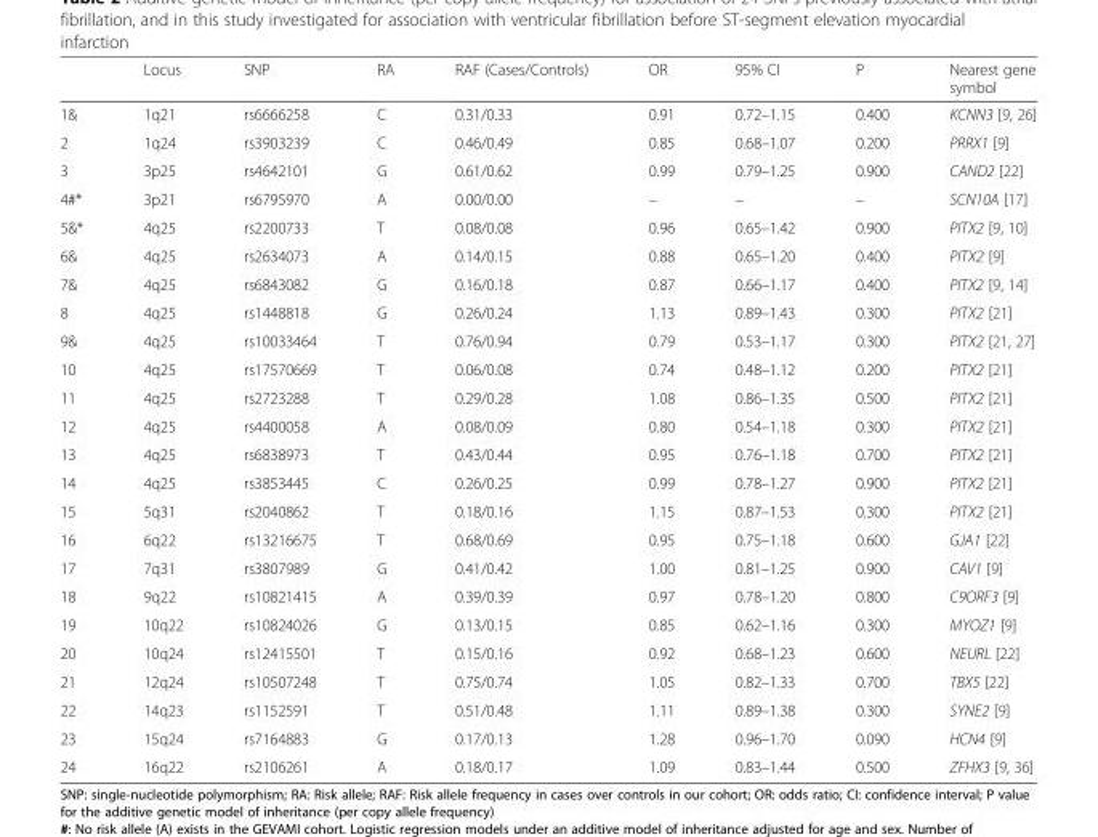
<table><thead><tr><td></td><td>Locus</td><td>SNP</td><td>RA</td><td>RAF (Cases/Controls)</td><td>OR</td><td>95% CI</td><td>P</td><td>Nearest gene symbol</td></tr></thead><tbody><tr><td>1&amp;</td><td>1q21</td><td>rs6666258</td><td>C</td><td>0.31/0.33</td><td>0.91</td><td>0.72–1.15</td><td>0.400</td><td>KCNN3 [9, 26]</td></tr><tr><td>2</td><td>1q24</td><td>rs3903239</td><td>C</td><td>0.46/0.49</td><td>0.85</td><td>0.68–1.07</td><td>0.200</td><td>PRRX1 [9]</td></tr><tr><td>3</td><td>3p25</td><td>rs4642101</td><td>G</td><td>0.61/0.62</td><td>0.99</td><td>0.79–1.25</td><td>0.900</td><td>CAND2 [22]</td></tr><tr><td>4#*</td><td>3p21</td><td>rs6795970</td><td>A</td><td>0.00/0.00</td><td>–</td><td>–</td><td>–</td><td>SCN10A [17]</td></tr><tr><td>5&amp;*</td><td>4q25</td><td>rs2200733</td><td>T</td><td>0.08/0.08</td><td>0.96</td><td>0.65–1.42</td><td>0.900</td><td>PITX2 [9, 10]</td></tr><tr><td>6&amp;</td><td>4q25</td><td>rs2634073</td><td>A</td><td>0.14/0.15</td><td>0.88</td><td>0.65–1.20</td><td>0.400</td><td>PITX2 [9]</td></tr><tr><td>7&amp;</td><td>4q25</td><td>rs6843082</td><td>G</td><td>0.16/0.18</td><td>0.87</td><td>0.66–1.17</td><td>0.400</td><td>PITX2 [9, 14]</td></tr><tr><td>8</td><td>4q25</td><td>rs1448818</td><td>G</td><td>0.26/0.24</td><td>1.13</td><td>0.89–1.43</td><td>0.300</td><td>PITX2 [21]</td></tr><tr><td>9&amp;</td><td>4q25</td><td>rs10033464</td><td>T</td><td>0.76/0.94</td><td>0.79</td><td>0.53–1.17</td><td>0.300</td><td>PITX2 [21, 27]</td></tr><tr><td>10</td><td>4q25</td><td>rs17570669</td><td>T</td><td>0.06/0.08</td><td>0.74</td><td>0.48–1.12</td><td>0.200</td><td>PITX2 [21]</td></tr><tr><td>11</td><td>4q25</td><td>rs2723288</td><td>T</td><td>0.29/0.28</td><td>1.08</td><td>0.86–1.35</td><td>0.500</td><td>PITX2 [21]</td></tr><tr><td>12</td><td>4q25</td><td>rs4400058</td><td>A</td><td>0.08/0.09</td><td>0.80</td><td>0.54–1.18</td><td>0.300</td><td>PITX2 [21]</td></tr><tr><td>13</td><td>4q25</td><td>rs6838973</td><td>T</td><td>0.43/0.44</td><td>0.95</td><td>0.76–1.18</td><td>0.700</td><td>PITX2 [21]</td></tr><tr><td>14</td><td>4q25</td><td>rs3853445</td><td>C</td><td>0.26/0.25</td><td>0.99</td><td>0.78–1.27</td><td>0.900</td><td>PITX2 [21]</td></tr><tr><td>15</td><td>5q31</td><td>rs2040862</td><td>T</td><td>0.18/0.16</td><td>1.15</td><td>0.87–1.53</td><td>0.300</td><td>PITX2 [21]</td></tr><tr><td>16</td><td>6q22</td><td>rs13216675</td><td>T</td><td>0.68/0.69</td><td>0.95</td><td>0.75–1.18</td><td>0.600</td><td>GJA1 [22]</td></tr><tr><td>17</td><td>7q31</td><td>rs3807989</td><td>G</td><td>0.41/0.42</td><td>1.00</td><td>0.81–1.25</td><td>0.900</td><td>CAV1 [9]</td></tr><tr><td>18</td><td>9q22</td><td>rs10821415</td><td>A</td><td>0.39/0.39</td><td>0.97</td><td>0.78–1.20</td><td>0.800</td><td>C9ORF3 [9]</td></tr><tr><td>19</td><td>10q22</td><td>rs10824026</td><td>G</td><td>0.13/0.15</td><td>0.85</td><td>0.62–1.16</td><td>0.300</td><td>MYOZ1 [9]</td></tr><tr><td>20</td><td>10q24</td><td>rs12415501</td><td>T</td><td>0.15/0.16</td><td>0.92</td><td>0.68–1.23</td><td>0.600</td><td>NEURL [22]</td></tr><tr><td>21</td><td>12q24</td><td>rs10507248</td><td>T</td><td>0.75/0.74</td><td>1.05</td><td>0.82–1.33</td><td>0.700</td><td>TBX5 [22]</td></tr><tr><td>22</td><td>14q23</td><td>rs1152591</td><td>T</td><td>0.51/0.48</td><td>1.11</td><td>0.89–1.38</td><td>0.300</td><td>SYNE2 [9]</td></tr><tr><td>23</td><td>15q24</td><td>rs7164883</td><td>G</td><td>0.17/0.13</td><td>1.28</td><td>0.96–1.70</td><td>0.090</td><td>HCN4 [9]</td></tr><tr><td>24</td><td>16q22</td><td>rs2106261</td><td>A</td><td>0.18/0.17</td><td>1.09</td><td>0.83–1.44</td><td>0.500</td><td>ZFHX3 [9, 36]</td></tr></tbody></table>